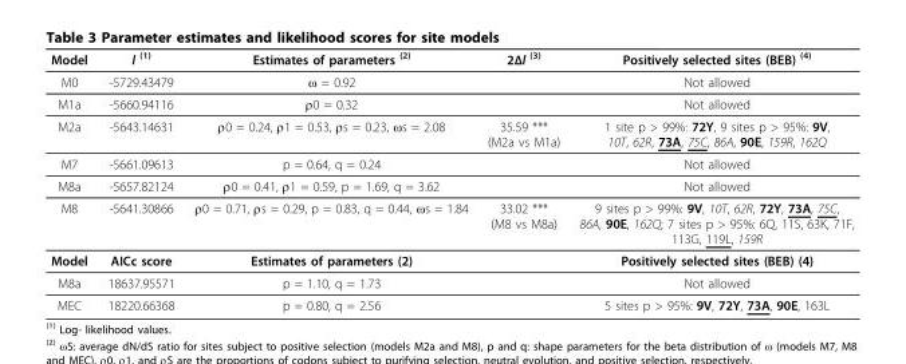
<table><thead><tr><td>Model</td><td>l <sup>(1)</sup></td><td>Estimates of parameters <sup>(2)</sup></td><td>2Δl <sup>(3)</sup></td><td>Positively selected sites (BEB) <sup>(4)</sup></td></tr></thead><tbody><tr><td>M0</td><td>-5729.43479</td><td>ω = 0.92</td><td></td><td>Not allowed</td></tr><tr><td>M1a</td><td>-5660.94116</td><td>ρ0 = 0.32</td><td></td><td>Not allowed</td></tr><tr><td>M2a</td><td>-5643.14631</td><td>ρ0 = 0.24, ρ1 = 0.53, ρs = 0.23, ωs = 2.08</td><td>35.59 *** (M2a vs M1a)</td><td>1 site p &gt; 99%: 72Y, 9 sites p &gt; 95%: 9V, 10T, 62R, 73A, 75C, 86A, 90E, 159R, 162Q</td></tr><tr><td>M7</td><td>-5661.09613</td><td>p = 0.64, q = 0.24</td><td></td><td>Not allowed</td></tr><tr><td>M8a</td><td>-5657.82124</td><td>ρ0 = 0.41, ρ1 = 0.59, p = 1.69, q = 3.62</td><td></td><td>Not allowed</td></tr><tr><td>M8</td><td>-5641.30866</td><td>ρ0 = 0.71, ρs = 0.29, p = 0.83, q = 0.44, ωs = 1.84</td><td>33.02 *** (M8 vs M8a)</td><td>9 sites p &gt; 99%: 9V, 10T, 62R, 72Y, 73A, 75C, 86A, 90E, 162Q; 7 sites p &gt; 95%: 6Q, 11S, 63K, 71F, 113G, 119L, 159R</td></tr><tr><td>Model</td><td>AICc score</td><td>Estimates of parameters (2)</td><td></td><td>Positively selected sites (BEB) (4)</td></tr><tr><td>M8a</td><td>18637.95571</td><td>p = 1.10, q = 1.73</td><td></td><td>Not allowed</td></tr><tr><td>MEC</td><td>18220.66368</td><td>p = 0.80, q = 2.56</td><td></td><td>5 sites p &gt; 95%: 9V, 72Y, 73A, 90E, 163L</td></tr></tbody></table>